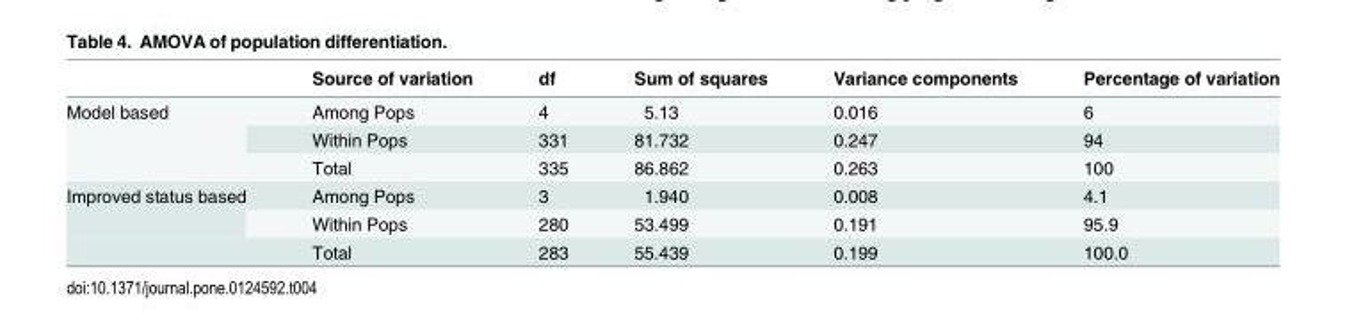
<table><thead><tr><td></td><td>Source of variation</td><td>df</td><td>Sum of squares</td><td>Variance components</td><td>Percentage of variation</td></tr></thead><tbody><tr><td rowspan="3">Model based</td><td>Among Pops</td><td>4</td><td>5.13</td><td>0.016</td><td>6</td></tr><tr><td>Within Pops</td><td>331</td><td>81.732</td><td>0.247</td><td>94</td></tr><tr><td>Total</td><td>335</td><td>86.862</td><td>0.263</td><td>100</td></tr><tr><td rowspan="3">Improved status based</td><td>Among Pops</td><td>3</td><td>1.940</td><td>0.008</td><td>4.1</td></tr><tr><td>Within Pops</td><td>280</td><td>53.499</td><td>0.191</td><td>95.9</td></tr><tr><td>Total</td><td>283</td><td>55.439</td><td>0.199</td><td>100.0</td></tr></tbody></table>